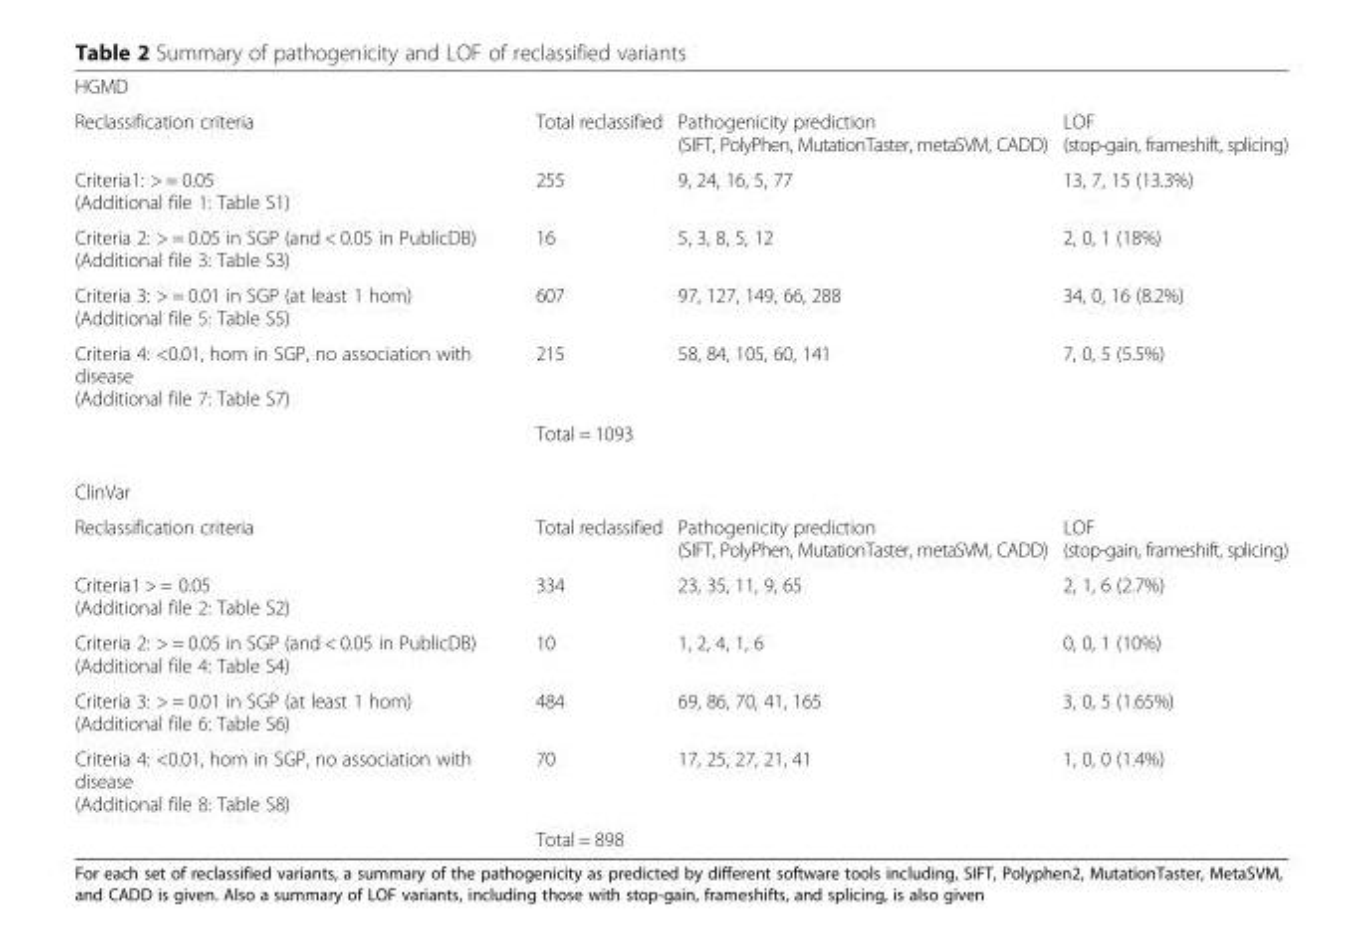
<table><tbody><tr><td colspan="4">HGMD</td></tr><tr><td>Reclassification criteria</td><td>Total reclassified</td><td>Pathogenicity prediction (SIFT, PolyPhen, MutationTaster, metaSVM, CADD)</td><td>LOF (stop-gain, frameshift, splicing)</td></tr><tr><td>Criteria1: &gt; = 0.05 (Additional file 1: Table S1)</td><td>255</td><td>9, 24, 16, 5, 77</td><td>13, 7, 15 (13.3%)</td></tr><tr><td>Criteria 2: &gt; = 0.05 in SGP (and &lt; 0.05 in PublicDB) (Additional file 3: Table S3)</td><td>16</td><td>5, 3, 8, 5, 12</td><td>2, 0, 1 (18%)</td></tr><tr><td>Criteria 3: &gt; = 0.01 in SGP (at least 1 hom) (Additional file 5: Table S5)</td><td>607</td><td>97, 127, 149, 66, 288</td><td>34, 0, 16 (8.2%)</td></tr><tr><td rowspan="2">Criteria 4: &lt;0.01, hom in SGP, no association with disease (Additional file 7: Table S7)</td><td>215</td><td>58, 84, 105, 60, 141</td><td>7, 0, 5 (5.5%)</td></tr><tr><td>Total = 1093</td><td></td><td></td></tr><tr><td colspan="4">ClinVar</td></tr><tr><td>Reclassification criteria</td><td>Total reclassified</td><td>Pathogenicity prediction (SIFT, PolyPhen, MutationTaster, metaSVM, CADD)</td><td>LOF (stop-gain, frameshift, splicing)</td></tr><tr><td>Criteria1 &gt; = 0.05 (Additional file 2: Table S2)</td><td>334</td><td>23, 35, 11, 9, 65</td><td>2, 1, 6 (2.7%)</td></tr><tr><td>Criteria 2: &gt; = 0.05 in SGP (and &lt; 0.05 in PublicDB) (Additional file 4: Table S4)</td><td>10</td><td>1, 2, 4, 1, 6</td><td>0, 0, 1 (10%)</td></tr><tr><td>Criteria 3: &gt; = 0.01 in SGP (at least 1 hom) (Additional file 6: Table S6)</td><td>484</td><td>69, 86, 70, 41, 165</td><td>3, 0, 5 (1.65%)</td></tr><tr><td rowspan="2">Criteria 4: &lt;0.01, hom in SGP, no association with disease (Additional file 8: Table S8)</td><td>70</td><td>17, 25, 27, 21, 41</td><td>1, 0, 0 (1.4%)</td></tr><tr><td>Total = 898</td><td></td><td></td></tr></tbody></table>